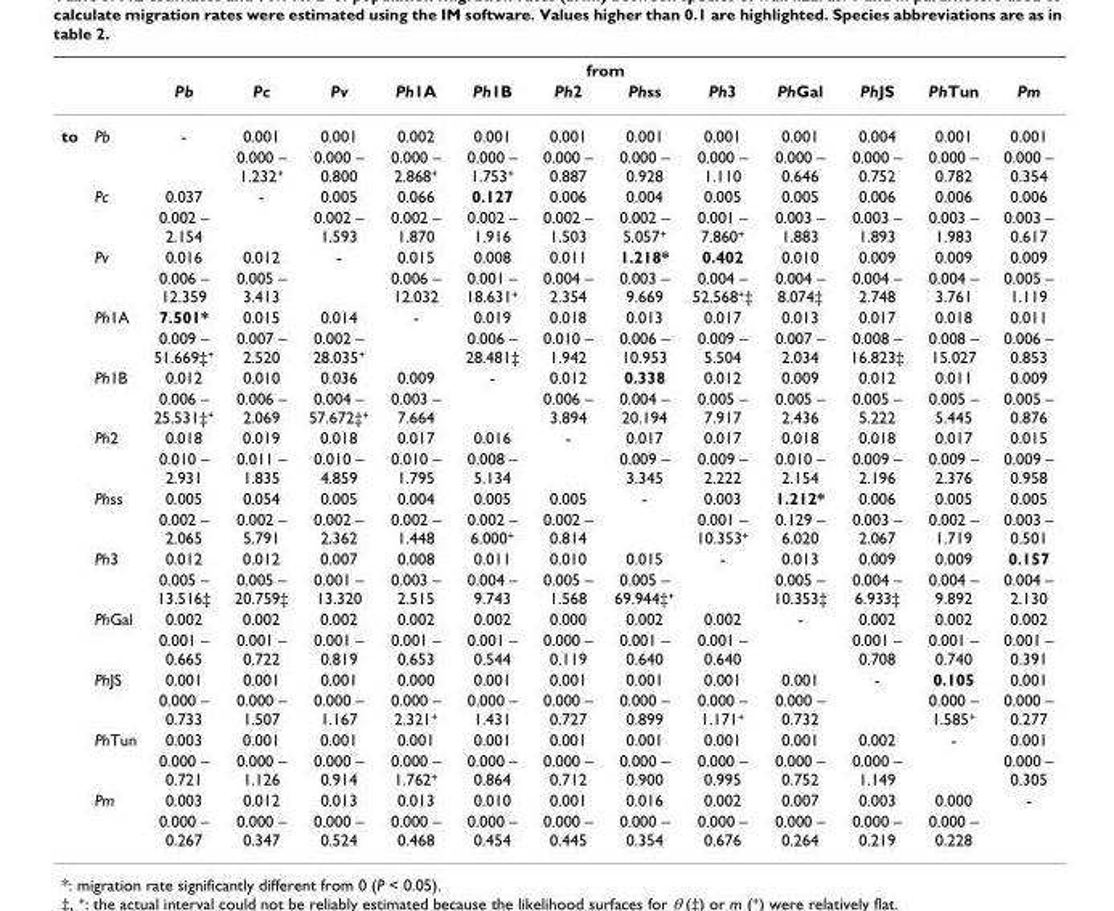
<table><thead><tr><td rowspan="2"></td><td rowspan="2"></td><td colspan="12">from</td></tr><tr><td>Pb</td><td>Pc</td><td>Pv</td><td>Ph1A</td><td>Ph1B</td><td>Ph2</td><td>Phss</td><td>Ph3</td><td>PhGal</td><td>PhJS</td><td>PhTun</td><td>Pm</td></tr></thead><tbody><tr><td rowspan="24">to</td><td>Pb</td><td>-</td><td>0.001</td><td>0.001</td><td>0.002</td><td>0.001</td><td>0.001</td><td>0.001</td><td>0.001</td><td>0.001</td><td>0.004</td><td>0.001</td><td>0.001</td></tr><tr><td></td><td></td><td>0.000 – 1.232<sup>+</sup></td><td>0.000 – 0.800</td><td>0.000 – 2.868<sup>+</sup></td><td>0.000 – 1.753<sup>+</sup></td><td>0.000 – 0.887</td><td>0.000 – 0.928</td><td>0.000 – 1.110</td><td>0.000 – 0.646</td><td>0.000 – 0.752</td><td>0.000 – 0.782</td><td>0.000 – 0.354</td></tr><tr><td>Pc</td><td>0.037</td><td>-</td><td>0.005</td><td>0.066</td><td>0.127</td><td>0.006</td><td>0.004</td><td>0.005</td><td>0.005</td><td>0.006</td><td>0.006</td><td>0.006</td></tr><tr><td></td><td>0.002 – 2.154</td><td></td><td>0.002 – 1.593</td><td>0.002 – 1.870</td><td>0.002 – 1.916</td><td>0.002 – 1.503</td><td>0.002 – 5.057<sup>+</sup></td><td>0.001 – 7.860<sup>+</sup></td><td>0.003 – 1.883</td><td>0.003 – 1.893</td><td>0.003 – 1.983</td><td>0.003 – 0.617</td></tr><tr><td>Pv</td><td>0.016</td><td>0.012</td><td>-</td><td>0.015</td><td>0.008</td><td>0.011</td><td>1.218*</td><td>0.402</td><td>0.010</td><td>0.009</td><td>0.009</td><td>0.009</td></tr><tr><td></td><td>0.006 – 12.359</td><td>0.005 – 3.413</td><td></td><td>0.006 – 12.032</td><td>0.001 – 18.631<sup>+</sup></td><td>0.004 – 2.354</td><td>0.003 – 9.669</td><td>0.004 – 52.568<sup>+</sup>‡</td><td>0.004 – 8.074‡</td><td>0.004 – 2.748</td><td>0.004 – 3.761</td><td>0.005 – 1.119</td></tr><tr><td>Ph1A</td><td>7.501*</td><td>0.015</td><td>0.014</td><td>-</td><td>0.019</td><td>0.018</td><td>0.013</td><td>0.017</td><td>0.013</td><td>0.017</td><td>0.018</td><td>0.011</td></tr><tr><td></td><td>0.009 – 51.669‡<sup>+</sup></td><td>0.007 – 2.520</td><td>0.002 – 28.035<sup>+</sup></td><td></td><td>0.006 – 28.481‡</td><td>0.010 – 1.942</td><td>0.006 – 10.953</td><td>0.009 – 5.504</td><td>0.007 – 2.034</td><td>0.008 – 16.823‡</td><td>0.008 – 15.027</td><td>0.006 – 0.853</td></tr><tr><td>Ph1B</td><td>0.012</td><td>0.010</td><td>0.036</td><td>0.009</td><td>-</td><td>0.012</td><td>0.338</td><td>0.012</td><td>0.009</td><td>0.012</td><td>0.011</td><td>0.009</td></tr><tr><td></td><td>0.006 – 25.531‡<sup>+</sup></td><td>0.006 – 2.069</td><td>0.004 – 57.672‡<sup>+</sup></td><td>0.003 – 7.664</td><td></td><td>0.006 – 3.894</td><td>0.004 – 20.194</td><td>0.005 – 7.917</td><td>0.005 – 2.436</td><td>0.005 – 5.222</td><td>0.005 – 5.445</td><td>0.005 – 0.876</td></tr><tr><td>Ph2</td><td>0.018</td><td>0.019</td><td>0.018</td><td>0.017</td><td>0.016</td><td>-</td><td>0.017</td><td>0.017</td><td>0.018</td><td>0.018</td><td>0.017</td><td>0.015</td></tr><tr><td></td><td>0.010 – 2.931</td><td>0.011 – 1.835</td><td>0.010 – 4.859</td><td>0.010 – 1.795</td><td>0.008 – 5.134</td><td></td><td>0.009 – 3.345</td><td>0.009 – 2.222</td><td>0.010 – 2.154</td><td>0.009 – 2.196</td><td>0.009 – 2.376</td><td>0.009 – 0.958</td></tr><tr><td>Phss</td><td>0.005</td><td>0.054</td><td>0.005</td><td>0.004</td><td>0.005</td><td>0.005</td><td>-</td><td>0.003</td><td>1.212*</td><td>0.006</td><td>0.005</td><td>0.005</td></tr><tr><td></td><td>0.002 – 2.065</td><td>0.002 – 5.791</td><td>0.002 – 2.362</td><td>0.002 – 1.448</td><td>0.002 – 6.000<sup>+</sup></td><td>0.002 – 0.814</td><td></td><td>0.001 – 10.353<sup>+</sup></td><td>0.129 – 6.020</td><td>0.003 – 2.067</td><td>0.002 – 1.719</td><td>0.003 – 0.501</td></tr><tr><td>Ph3</td><td>0.012</td><td>0.012</td><td>0.007</td><td>0.008</td><td>0.011</td><td>0.010</td><td>0.015</td><td>-</td><td>0.013</td><td>0.009</td><td>0.009</td><td>0.157</td></tr><tr><td></td><td>0.005 – 13.516‡</td><td>0.005 – 20.759‡</td><td>0.001 – 13.320</td><td>0.003 – 2.515</td><td>0.004 – 9.743</td><td>0.005 – 1.568</td><td>0.005 – 69.944‡<sup>+</sup></td><td></td><td>0.005 – 10.353‡</td><td>0.004 – 6.933‡</td><td>0.004 – 9.892</td><td>0.004 – 2.130</td></tr><tr><td>PhGal</td><td>0.002</td><td>0.002</td><td>0.002</td><td>0.002</td><td>0.002</td><td>0.000</td><td>0.002</td><td>0.002</td><td>-</td><td>0.002</td><td>0.002</td><td>0.002</td></tr><tr><td></td><td>0.001 – 0.665</td><td>0.001 – 0.722</td><td>0.001 – 0.819</td><td>0.001 – 0.653</td><td>0.001 – 0.544</td><td>0.000 – 0.119</td><td>0.001 – 0.640</td><td>0.001 – 0.640</td><td></td><td>0.001 – 0.708</td><td>0.001 – 0.740</td><td>0.001 – 0.391</td></tr><tr><td>PhJS</td><td>0.001</td><td>0.001</td><td>0.001</td><td>0.000</td><td>0.001</td><td>0.001</td><td>0.001</td><td>0.001</td><td>0.001</td><td>-</td><td>0.105</td><td>0.001</td></tr><tr><td></td><td>0.000 – 0.733</td><td>0.000 – 1.507</td><td>0.000 – 1.167</td><td>0.000 – 2.321<sup>+</sup></td><td>0.000 – 1.431</td><td>0.000 – 0.727</td><td>0.000 – 0.899</td><td>0.000 – 1.171<sup>+</sup></td><td>0.000 – 0.732</td><td></td><td>0.000 – 1.585<sup>+</sup></td><td>0.000 – 0.277</td></tr><tr><td>PhTun</td><td>0.003</td><td>0.001</td><td>0.001</td><td>0.001</td><td>0.001</td><td>0.001</td><td>0.001</td><td>0.001</td><td>0.001</td><td>0.002</td><td>-</td><td>0.001</td></tr><tr><td></td><td>0.000 – 0.721</td><td>0.000 – 1.126</td><td>0.000 – 0.914</td><td>0.000 – 1.762<sup>+</sup></td><td>0.000 – 0.864</td><td>0.000 – 0.712</td><td>0.000 – 0.900</td><td>0.000 – 0.995</td><td>0.000 – 0.752</td><td>0.000 – 1.149</td><td></td><td>0.000 – 0.305</td></tr><tr><td>Pm</td><td>0.003</td><td>0.012</td><td>0.013</td><td>0.013</td><td>0.010</td><td>0.001</td><td>0.016</td><td>0.002</td><td>0.007</td><td>0.003</td><td>0.000</td><td>-</td></tr><tr><td></td><td>0.000 – 0.267</td><td>0.000 – 0.347</td><td>0.000 – 0.524</td><td>0.000 – 0.468</td><td>0.000 – 0.454</td><td>0.000 – 0.445</td><td>0.000 – 0.354</td><td>0.000 – 0.676</td><td>0.000 – 0.264</td><td>0.000 – 0.219</td><td>0.000 – 0.228</td><td></td></tr></tbody></table>